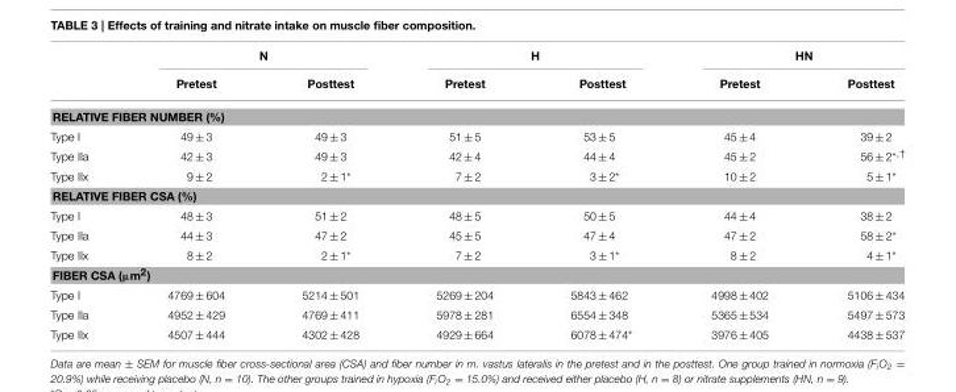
<table><thead><tr><td rowspan="2"></td><td colspan="2">N</td><td colspan="2">H</td><td colspan="2">HN</td></tr><tr><td>Pretest</td><td>Posttest</td><td>Pretest</td><td>Posttest</td><td>Pretest</td><td>Posttest</td></tr></thead><tbody><tr><td colspan="7">RELATIVE FIBER NUMBER (%)</td></tr><tr><td>Type I</td><td>49 ± 3</td><td>49 ± 3</td><td>51 ± 5</td><td>53 ± 5</td><td>45 ± 4</td><td>39 ± 2</td></tr><tr><td>Type IIa</td><td>42 ± 3</td><td>49 ± 3</td><td>42 ± 4</td><td>44 ± 4</td><td>45 ± 2</td><td>56 ± 2<sup>*,†</sup></td></tr><tr><td>Type IIx</td><td>9 ± 2</td><td>2 ± 1*</td><td>7 ± 2</td><td>3 ± 2*</td><td>10 ± 2</td><td>5 ± 1*</td></tr><tr><td colspan="7">RELATIVE FIBER CSA (%)</td></tr><tr><td>Type I</td><td>48 ± 3</td><td>51 ± 2</td><td>48 ± 5</td><td>50 ± 5</td><td>44 ± 4</td><td>38 ± 2</td></tr><tr><td>Type IIa</td><td>44 ± 3</td><td>47 ± 2</td><td>45 ± 5</td><td>47 ± 4</td><td>47 ± 2</td><td>58 ± 2*</td></tr><tr><td>Type IIx</td><td>8 ± 2</td><td>2 ± 1*</td><td>7 ± 2</td><td>3 ± 1*</td><td>8 ± 2</td><td>4 ± 1*</td></tr><tr><td colspan="7">FIBER CSA (µm<sup>2</sup>)</td></tr><tr><td>Type I</td><td>4769 ± 604</td><td>5214 ± 501</td><td>5269 ± 204</td><td>5843 ± 462</td><td>4998 ± 402</td><td>5106 ± 434</td></tr><tr><td>Type IIa</td><td>4952 ± 429</td><td>4769 ± 411</td><td>5978 ± 281</td><td>6554 ± 348</td><td>5365 ± 534</td><td>5497 ± 573</td></tr><tr><td>Type IIx</td><td>4507 ± 444</td><td>4302 ± 428</td><td>4929 ± 664</td><td>6078 ± 474*</td><td>3976 ± 405</td><td>4438 ± 537</td></tr></tbody></table>